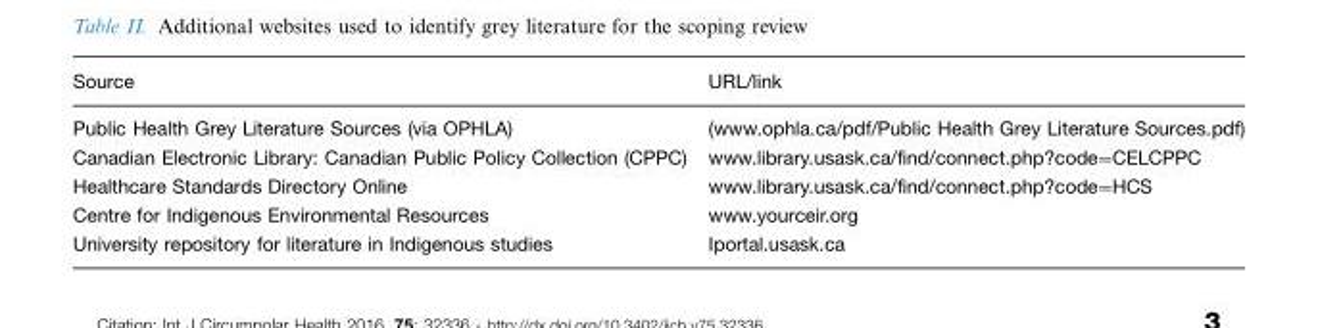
<table><thead><tr><td>Source</td><td>URL/link</td></tr></thead><tbody><tr><td>Public Health Grey Literature Sources (via OPHLA)</td><td>(www.ophla.ca/pdf/Public Health Grey Literature Sources.pdf)</td></tr><tr><td>Canadian Electronic Library: Canadian Public Policy Collection (CPPC)</td><td>www.library.usask.ca/find/connect.php?code=CELCPPC</td></tr><tr><td>Healthcare Standards Directory Online</td><td>www.library.usask.ca/find/connect.php?code=HCS</td></tr><tr><td>Centre for Indigenous Environmental Resources</td><td>www.yourceir.org</td></tr><tr><td>University repository for literature in Indigenous studies</td><td>Iportal.usask.ca</td></tr></tbody></table>